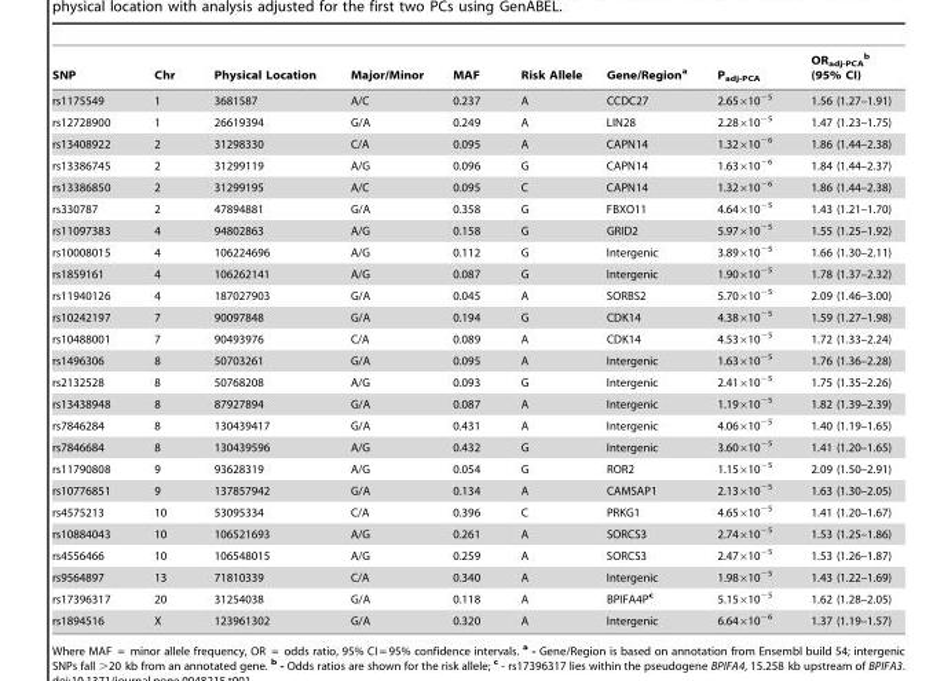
<table><thead><tr><td>SNP</td><td>Chr</td><td>Physical Location</td><td>Major/Minor</td><td>MAF</td><td>Risk Allele</td><td>Gene/Region<sup>a</sup></td><td>P<sub>adj-PCA</sub></td><td>OR<sub>adj-PCA</sub> <sup>b</sup> (95% CI)</td></tr></thead><tbody><tr><td>rs1175549</td><td>1</td><td>3681587</td><td>A/C</td><td>0.237</td><td>A</td><td>CCDC27</td><td>2.65×10<sup>−5</sup></td><td>1.56 (1.27–1.91)</td></tr><tr><td>rs12728900</td><td>1</td><td>26619394</td><td>G/A</td><td>0.249</td><td>A</td><td>LIN28</td><td>2.28×10<sup>−5</sup></td><td>1.47 (1.23–1.75)</td></tr><tr><td>rs13408922</td><td>2</td><td>31298330</td><td>C/A</td><td>0.095</td><td>A</td><td>CAPN14</td><td>1.32×10<sup>−6</sup></td><td>1.86 (1.44–2.38)</td></tr><tr><td>rs13386745</td><td>2</td><td>31299119</td><td>A/G</td><td>0.096</td><td>G</td><td>CAPN14</td><td>1.63×10<sup>−6</sup></td><td>1.84 (1.44–2.37)</td></tr><tr><td>rs13386850</td><td>2</td><td>31299195</td><td>A/C</td><td>0.095</td><td>C</td><td>CAPN14</td><td>1.32×10<sup>−6</sup></td><td>1.86 (1.44–2.38)</td></tr><tr><td>rs330787</td><td>2</td><td>47894881</td><td>G/A</td><td>0.358</td><td>G</td><td>FBXO11</td><td>4.64×10<sup>−5</sup></td><td>1.43 (1.21–1.70)</td></tr><tr><td>rs11097383</td><td>4</td><td>94802863</td><td>A/G</td><td>0.158</td><td>G</td><td>GRID2</td><td>5.97×10<sup>−5</sup></td><td>1.55 (1.25–1.92)</td></tr><tr><td>rs10008015</td><td>4</td><td>106224696</td><td>A/G</td><td>0.112</td><td>G</td><td>Intergenic</td><td>3.89×10<sup>−5</sup></td><td>1.66 (1.30–2.11)</td></tr><tr><td>rs1859161</td><td>4</td><td>106262141</td><td>A/G</td><td>0.087</td><td>G</td><td>Intergenic</td><td>1.90×10<sup>−5</sup></td><td>1.78 (1.37–2.32)</td></tr><tr><td>rs11940126</td><td>4</td><td>187027903</td><td>G/A</td><td>0.045</td><td>A</td><td>SORBS2</td><td>5.70×10<sup>−5</sup></td><td>2.09 (1.46–3.00)</td></tr><tr><td>rs10242197</td><td>7</td><td>90097848</td><td>G/A</td><td>0.194</td><td>G</td><td>CDK14</td><td>4.38×10<sup>−5</sup></td><td>1.59 (1.27–1.98)</td></tr><tr><td>rs10488001</td><td>7</td><td>90493976</td><td>C/A</td><td>0.089</td><td>A</td><td>CDK14</td><td>4.53×10<sup>−5</sup></td><td>1.72 (1.33–2.24)</td></tr><tr><td>rs1496306</td><td>8</td><td>50703261</td><td>G/A</td><td>0.095</td><td>A</td><td>Intergenic</td><td>1.63×10<sup>−5</sup></td><td>1.76 (1.36–2.28)</td></tr><tr><td>rs2132528</td><td>8</td><td>50768208</td><td>A/G</td><td>0.093</td><td>G</td><td>Intergenic</td><td>2.41×10<sup>−5</sup></td><td>1.75 (1.35–2.26)</td></tr><tr><td>rs13438948</td><td>8</td><td>87927894</td><td>G/A</td><td>0.087</td><td>A</td><td>Intergenic</td><td>1.19×10<sup>−5</sup></td><td>1.82 (1.39–2.39)</td></tr><tr><td>rs7846284</td><td>8</td><td>130439417</td><td>G/A</td><td>0.431</td><td>A</td><td>Intergenic</td><td>4.06×10<sup>−5</sup></td><td>1.40 (1.19–1.65)</td></tr><tr><td>rs7846684</td><td>8</td><td>130439596</td><td>A/G</td><td>0.432</td><td>G</td><td>Intergenic</td><td>3.60×10<sup>−5</sup></td><td>1.41 (1.20–1.65)</td></tr><tr><td>rs11790808</td><td>9</td><td>93628319</td><td>A/G</td><td>0.054</td><td>G</td><td>ROR2</td><td>1.15×10<sup>−5</sup></td><td>2.09 (1.50–2.91)</td></tr><tr><td>rs10776851</td><td>9</td><td>137857942</td><td>G/A</td><td>0.134</td><td>A</td><td>CAMSAP1</td><td>2.13×10<sup>−5</sup></td><td>1.63 (1.30–2.05)</td></tr><tr><td>rs4575213</td><td>10</td><td>53095334</td><td>C/A</td><td>0.396</td><td>C</td><td>PRKG1</td><td>4.65×10<sup>−5</sup></td><td>1.41 (1.20–1.67)</td></tr><tr><td>rs10884043</td><td>10</td><td>106521693</td><td>A/G</td><td>0.261</td><td>A</td><td>SORCS3</td><td>2.74×10<sup>−5</sup></td><td>1.53 (1.25–1.86)</td></tr><tr><td>rs4556466</td><td>10</td><td>106548015</td><td>A/G</td><td>0.259</td><td>A</td><td>SORCS3</td><td>2.47×10<sup>−5</sup></td><td>1.53 (1.26–1.87)</td></tr><tr><td>rs9564897</td><td>13</td><td>71810339</td><td>C/A</td><td>0.340</td><td>A</td><td>Intergenic</td><td>1.98×10<sup>−5</sup></td><td>1.43 (1.22–1.69)</td></tr><tr><td>rs17396317</td><td>20</td><td>31254038</td><td>G/A</td><td>0.118</td><td>A</td><td>BPIFA4P<sup>c</sup></td><td>5.15×10<sup>−5</sup></td><td>1.62 (1.28–2.05)</td></tr><tr><td>rs1894516</td><td>X</td><td>123961302</td><td>G/A</td><td>0.320</td><td>A</td><td>Intergenic</td><td>6.64×10<sup>−6</sup></td><td>1.37 (1.19–1.57)</td></tr></tbody></table>